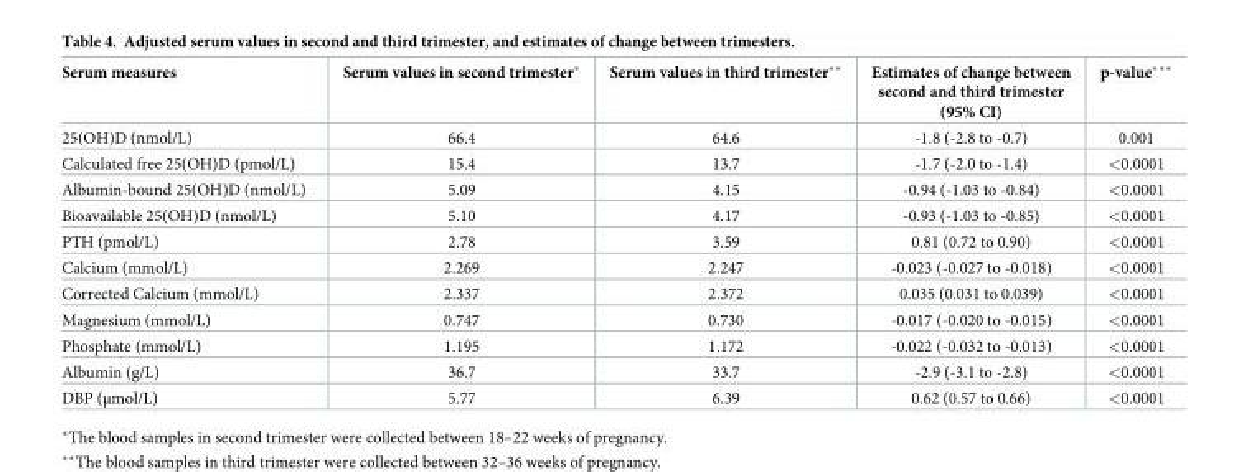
<table><thead><tr><td>Serum measures</td><td>Serum values in second trimester*</td><td>Serum values in third trimester**</td><td>Estimates of change between second and third trimester (95% CI)</td><td>p-value***</td></tr></thead><tbody><tr><td>25(OH)D (nmol/L)</td><td>66.4</td><td>64.6</td><td>-1.8 (-2.8 to -0.7)</td><td>0.001</td></tr><tr><td>Calculated free 25(OH)D (pmol/L)</td><td>15.4</td><td>13.7</td><td>-1.7 (-2.0 to -1.4)</td><td>&lt;0.0001</td></tr><tr><td>Albumin-bound 25(OH)D (nmol/L)</td><td>5.09</td><td>4.15</td><td>-0.94 (-1.03 to -0.84)</td><td>&lt;0.0001</td></tr><tr><td>Bioavailable 25(OH)D (nmol/L)</td><td>5.10</td><td>4.17</td><td>-0.93 (-1.03 to -0.85)</td><td>&lt;0.0001</td></tr><tr><td>PTH (pmol/L)</td><td>2.78</td><td>3.59</td><td>0.81 (0.72 to 0.90)</td><td>&lt;0.0001</td></tr><tr><td>Calcium (mmol/L)</td><td>2.269</td><td>2.247</td><td>-0.023 (-0.027 to -0.018)</td><td>&lt;0.0001</td></tr><tr><td>Corrected Calcium (mmol/L)</td><td>2.337</td><td>2.372</td><td>0.035 (0.031 to 0.039)</td><td>&lt;0.0001</td></tr><tr><td>Magnesium (mmol/L)</td><td>0.747</td><td>0.730</td><td>-0.017 (-0.020 to -0.015)</td><td>&lt;0.0001</td></tr><tr><td>Phosphate (mmol/L)</td><td>1.195</td><td>1.172</td><td>-0.022 (-0.032 to -0.013)</td><td>&lt;0.0001</td></tr><tr><td>Albumin (g/L)</td><td>36.7</td><td>33.7</td><td>-2.9 (-3.1 to -2.8)</td><td>&lt;0.0001</td></tr><tr><td>DBP (μmol/L)</td><td>5.77</td><td>6.39</td><td>0.62 (0.57 to 0.66)</td><td>&lt;0.0001</td></tr></tbody></table>